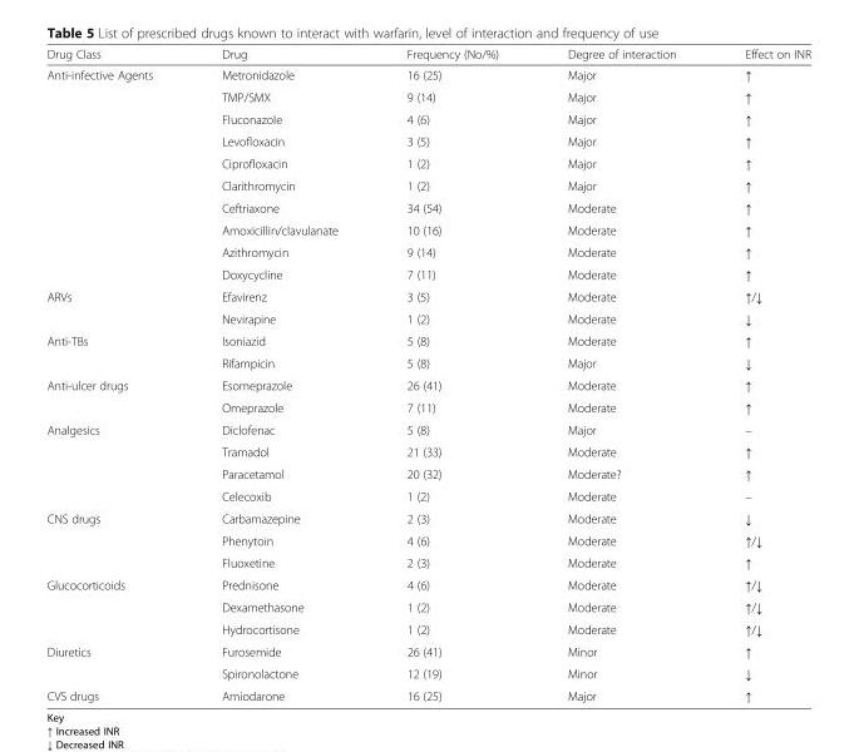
<table><thead><tr><td>Drug Class</td><td>Drug</td><td>Frequency (No/%)</td><td>Degree of interaction</td><td>Effect on INR</td></tr></thead><tbody><tr><td rowspan="10">Anti-infective Agents</td><td>Metronidazole</td><td>16 (25)</td><td>Major</td><td>↑</td></tr><tr><td>TMP/SMX</td><td>9 (14)</td><td>Major</td><td>↑</td></tr><tr><td>Fluconazole</td><td>4 (6)</td><td>Major</td><td>↑</td></tr><tr><td>Levofloxacin</td><td>3 (5)</td><td>Major</td><td>↑</td></tr><tr><td>Ciprofloxacin</td><td>1 (2)</td><td>Major</td><td>↑</td></tr><tr><td>Clarithromycin</td><td>1 (2)</td><td>Major</td><td>↑</td></tr><tr><td>Ceftriaxone</td><td>34 (54)</td><td>Moderate</td><td>↑</td></tr><tr><td>Amoxicillin/clavulanate</td><td>10 (16)</td><td>Moderate</td><td>↑</td></tr><tr><td>Azithromycin</td><td>9 (14)</td><td>Moderate</td><td>↑</td></tr><tr><td>Doxycycline</td><td>7 (11)</td><td>Moderate</td><td>↑</td></tr><tr><td rowspan="2">ARVs</td><td>Efavirenz</td><td>3 (5)</td><td>Moderate</td><td>↑/↓</td></tr><tr><td>Nevirapine</td><td>1 (2)</td><td>Moderate</td><td>↓</td></tr><tr><td rowspan="2">Anti-TBs</td><td>Isoniazid</td><td>5 (8)</td><td>Moderate</td><td>↑</td></tr><tr><td>Rifampicin</td><td>5 (8)</td><td>Major</td><td>↓</td></tr><tr><td rowspan="2">Anti-ulcer drugs</td><td>Esomeprazole</td><td>26 (41)</td><td>Moderate</td><td>↑</td></tr><tr><td>Omeprazole</td><td>7 (11)</td><td>Moderate</td><td>↑</td></tr><tr><td rowspan="4">Analgesics</td><td>Diclofenac</td><td>5 (8)</td><td>Major</td><td>–</td></tr><tr><td>Tramadol</td><td>21 (33)</td><td>Moderate</td><td>↑</td></tr><tr><td>Paracetamol</td><td>20 (32)</td><td>Moderate?</td><td>↑</td></tr><tr><td>Celecoxib</td><td>1 (2)</td><td>Moderate</td><td>–</td></tr><tr><td rowspan="3">CNS drugs</td><td>Carbamazepine</td><td>2 (3)</td><td>Moderate</td><td>↓</td></tr><tr><td>Phenytoin</td><td>4 (6)</td><td>Moderate</td><td>↑/↓</td></tr><tr><td>Fluoxetine</td><td>2 (3)</td><td>Moderate</td><td>↑</td></tr><tr><td rowspan="3">Glucocorticoids</td><td>Prednisone</td><td>4 (6)</td><td>Moderate</td><td>↑/↓</td></tr><tr><td>Dexamethasone</td><td>1 (2)</td><td>Moderate</td><td>↑/↓</td></tr><tr><td>Hydrocortisone</td><td>1 (2)</td><td>Moderate</td><td>↑/↓</td></tr><tr><td rowspan="2">Diuretics</td><td>Furosemide</td><td>26 (41)</td><td>Minor</td><td>↑</td></tr><tr><td>Spironolactone</td><td>12 (19)</td><td>Minor</td><td>↓</td></tr><tr><td>CVS drugs</td><td>Amiodarone</td><td>16 (25)</td><td>Major</td><td>↑</td></tr></tbody></table>